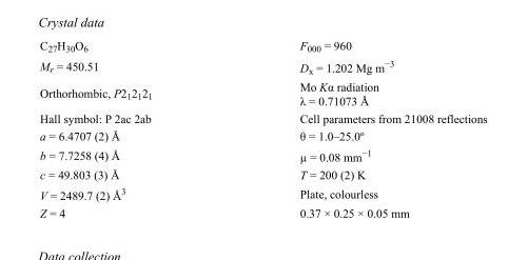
<table><tbody><tr><td>C<sub>27</sub>H<sub>30</sub>O<sub>6</sub></td><td>F<sub>000</sub> = 960</td></tr><tr><td>M<sub>r</sub> = 450.51</td><td>D<sub>x</sub> = 1.202 Mg m<sup>−3</sup></td></tr><tr><td>Orthorhombic, P2<sub>1</sub>2<sub>1</sub>2<sub>1</sub></td><td>Mo Kα radiation λ = 0.71073 Å</td></tr><tr><td>Hall symbol: P 2ac 2ab</td><td>Cell parameters from 21008 reflections</td></tr><tr><td>a = 6.4707 (2) Å</td><td>θ = 1.0–25.0º</td></tr><tr><td>b = 7.7258 (4) Å</td><td>µ = 0.08 mm<sup>−1</sup></td></tr><tr><td>c = 49.803 (3) Å</td><td>T = 200 (2) K</td></tr><tr><td>V = 2489.7 (2) Å<sup>3</sup></td><td>Plate, colourless</td></tr><tr><td>Z = 4</td><td>0.37 × 0.25 × 0.05 mm</td></tr></tbody></table>